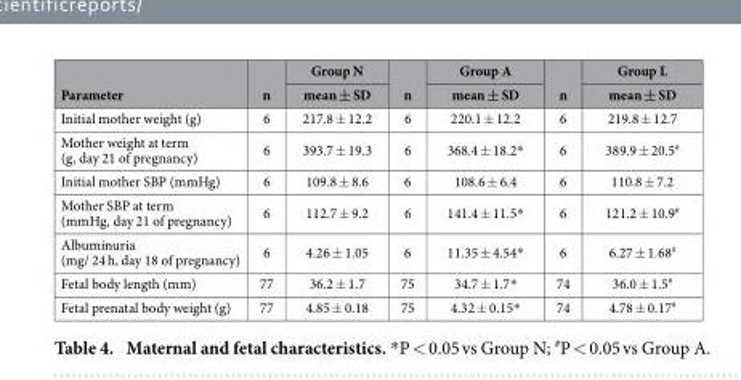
<table><thead><tr><td rowspan="2">Parameter</td><td rowspan="2">n</td><td rowspan="2">Group N mean ± SD</td><td rowspan="2">n</td><td rowspan="2">Group A mean ± SD</td><td rowspan="2">n</td><td rowspan="2">Group L mean ± SD</td></tr><tr></tr></thead><tbody><tr><td>Initial mother weight (g)</td><td>6</td><td>217.8 ± 12.2</td><td>6</td><td>220.1 ± 12.2</td><td>6</td><td>219.8 ± 12.7</td></tr><tr><td>Mother weight at term (g, day 21 of pregnancy)</td><td>6</td><td>393.7 ± 19.3</td><td>6</td><td>368.4 ± 18.2*</td><td>6</td><td>389.9 ± 20.5#</td></tr><tr><td>Initial mother SBP (mmHg)</td><td>6</td><td>109.8 ± 8.6</td><td>6</td><td>108.6 ± 6.4</td><td>6</td><td>110.8 ± 7.2</td></tr><tr><td>Mother SBP at term (mmHg, day 21 of pregnancy)</td><td>6</td><td>112.7 ± 9.2</td><td>6</td><td>141.4 ± 11.5*</td><td>6</td><td>121.2 ± 10.9#</td></tr><tr><td>Albuminuria (mg/ 24 h, day 18 of pregnancy)</td><td>6</td><td>4.26 ± 1.05</td><td>6</td><td>11.35 ± 4.54*</td><td>6</td><td>6.27 ± 1.68#</td></tr><tr><td>Fetal body length (mm)</td><td>77</td><td>36.2 ± 1.7</td><td>75</td><td>34.7 ± 1.7*</td><td>74</td><td>36.0 ± 1.5#</td></tr><tr><td>Fetal prenatal body weight (g)</td><td>77</td><td>4.85 ± 0.18</td><td>75</td><td>4.32 ± 0.15*</td><td>74</td><td>4.78 ± 0.17#</td></tr></tbody></table>